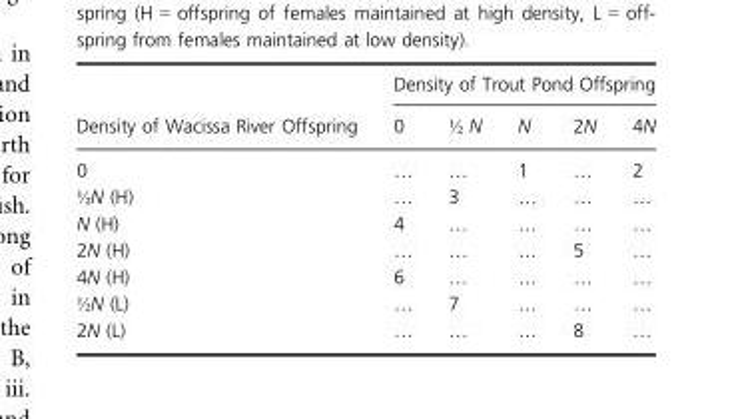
<table><thead><tr><td rowspan="2">Density of Wacissa River Offspring</td><td colspan="5">Density of Trout Pond Offspring</td></tr><tr><td>0</td><td>½ N</td><td>N</td><td>2N</td><td>4N</td></tr></thead><tbody><tr><td>0</td><td>…</td><td>…</td><td>1</td><td>…</td><td>2</td></tr><tr><td>½N (H)</td><td>…</td><td>3</td><td>…</td><td>…</td><td>…</td></tr><tr><td>N (H)</td><td>4</td><td>…</td><td>…</td><td>…</td><td>…</td></tr><tr><td>2N (H)</td><td>…</td><td>…</td><td>…</td><td>5</td><td>…</td></tr><tr><td>4N (H)</td><td>6</td><td>…</td><td>…</td><td>…</td><td>…</td></tr><tr><td>½N (L)</td><td>…</td><td>7</td><td>…</td><td>…</td><td>…</td></tr><tr><td>2N (L)</td><td>…</td><td>…</td><td>…</td><td>8</td><td>…</td></tr></tbody></table>